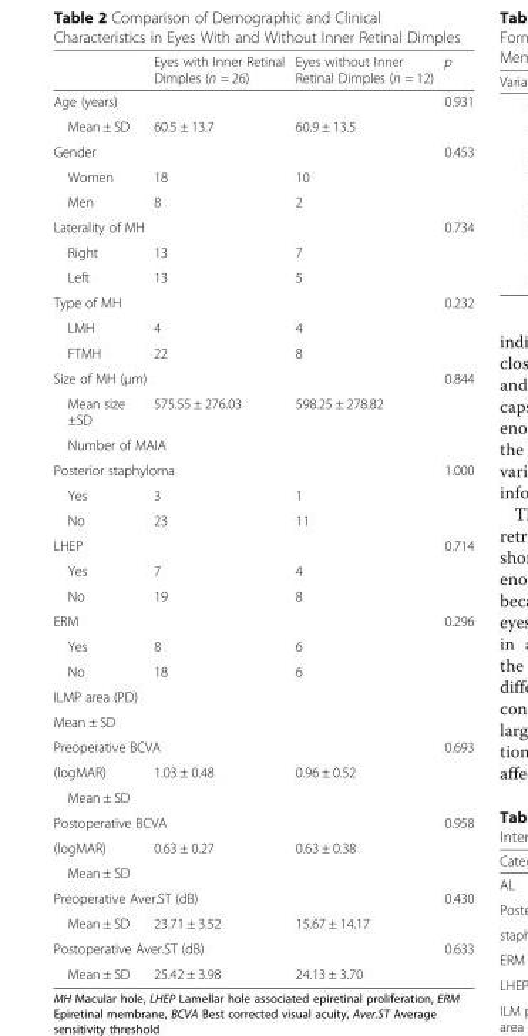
<table><thead><tr><td></td><td>Eyes with Inner Retinal Dimples (n = 26)</td><td>Eyes without Inner Retinal Dimples (n = 12)</td><td>p</td></tr></thead><tbody><tr><td colspan="3">Age (years)</td><td>0.931</td></tr><tr><td>Mean ± SD</td><td>60.5 ± 13.7</td><td>60.9 ± 13.5</td><td></td></tr><tr><td>Gender</td><td></td><td></td><td>0.453</td></tr><tr><td>Women</td><td>18</td><td>10</td><td rowspan="2"></td></tr><tr><td>Men</td><td>8</td><td>2</td></tr><tr><td colspan="3">Laterality of MH</td><td>0.734</td></tr><tr><td>Right</td><td>13</td><td>7</td><td rowspan="2"></td></tr><tr><td>Left</td><td>13</td><td>5</td></tr><tr><td colspan="3">Type of MH</td><td rowspan="2">0.232</td></tr><tr><td>LMH</td><td>4</td><td>4</td></tr><tr><td>FTMH</td><td>22</td><td>8</td><td></td></tr><tr><td colspan="3">Size of MH (μm)</td><td>0.844</td></tr><tr><td>Mean size ±SD</td><td>575.55 ± 276.03</td><td>598.25 ± 278.82</td><td></td></tr><tr><td colspan="4">Number of MAIA</td></tr><tr><td colspan="3">Posterior staphyloma</td><td rowspan="2">1.000</td></tr><tr><td>Yes</td><td>3</td><td>1</td></tr><tr><td>No</td><td>23</td><td>11</td><td></td></tr><tr><td colspan="3">LHEP</td><td>0.714</td></tr><tr><td>Yes</td><td>7</td><td>4</td><td rowspan="2"></td></tr><tr><td>No</td><td>19</td><td>8</td></tr><tr><td colspan="3">ERM</td><td>0.296</td></tr><tr><td>Yes</td><td>8</td><td>6</td><td rowspan="3"></td></tr><tr><td>No</td><td>18</td><td>6</td></tr><tr><td colspan="3">ILMP area (PD)</td></tr><tr><td colspan="4">Mean ± SD</td></tr><tr><td colspan="3">Preoperative BCVA</td><td>0.693</td></tr><tr><td>(logMAR)</td><td>1.03 ± 0.48</td><td>0.96 ± 0.52</td><td></td></tr><tr><td colspan="4">Mean ± SD</td></tr><tr><td colspan="3">Postoperative BCVA</td><td>0.958</td></tr><tr><td>(logMAR)</td><td>0.63 ± 0.27</td><td>0.63 ± 0.38</td><td></td></tr><tr><td colspan="4">Mean ± SD</td></tr><tr><td colspan="3">Preoperative Aver.ST (dB)</td><td>0.430</td></tr><tr><td>Mean ± SD</td><td>23.71 ± 3.52</td><td>15.67 ± 14.17</td><td></td></tr><tr><td colspan="3">Postoperative Aver.ST (dB)</td><td>0.633</td></tr><tr><td>Mean ± SD</td><td>25.42 ± 3.98</td><td>24.13 ± 3.70</td><td></td></tr></tbody></table>